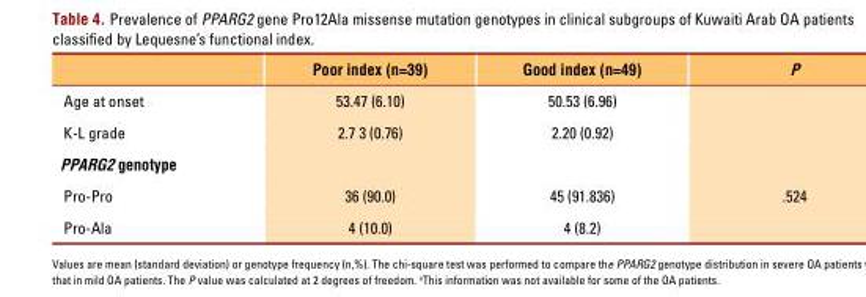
<table><thead><tr><td></td><td>Poor index (n=39)</td><td>Good index (n=49)</td><td>P</td></tr></thead><tbody><tr><td>Age at onset</td><td>53.47 (6.10)</td><td>50.53 (6.96)</td><td></td></tr><tr><td>K-L grade</td><td>2.7 3 (0.76)</td><td>2.20 (0.92)</td><td></td></tr><tr><td colspan="4">PPARG2 genotype</td></tr><tr><td>Pro-Pro</td><td>36 (90.0)</td><td>45 (91.836)</td><td>.524</td></tr><tr><td>Pro-Ala</td><td>4 (10.0)</td><td>4 (8.2)</td><td></td></tr></tbody></table>